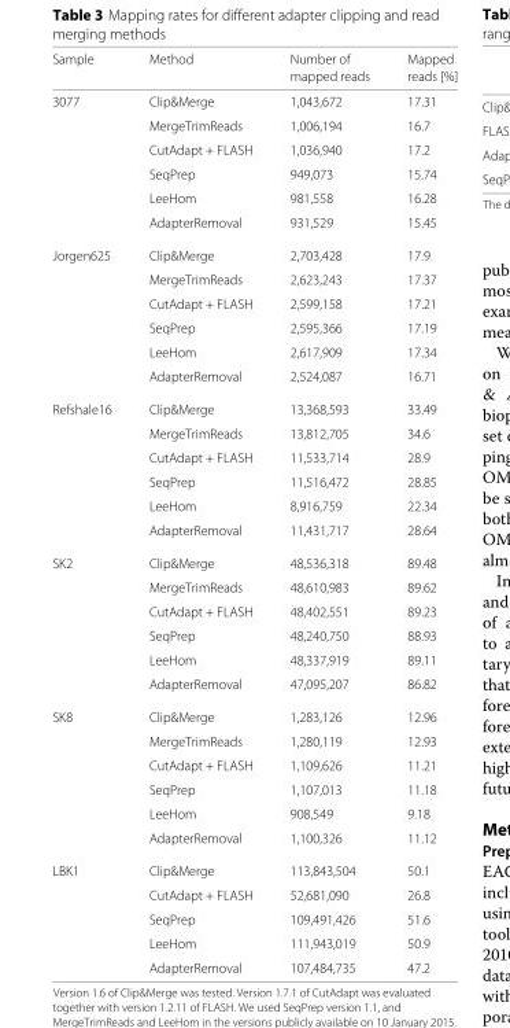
<table><thead><tr><td rowspan="2">Sample</td><td rowspan="2">Method</td><td rowspan="2">Number of mapped reads</td><td rowspan="2">Mapped reads [%]</td></tr><tr></tr></thead><tbody><tr><td rowspan="6">3077</td><td>Clip&amp;Merge</td><td>1,043,672</td><td>17.31</td></tr><tr><td>MergeTrimReads</td><td>1,006,194</td><td>16.7</td></tr><tr><td>CutAdapt + FLASH</td><td>1,036,940</td><td>17.2</td></tr><tr><td>SeqPrep</td><td>949,073</td><td>15.74</td></tr><tr><td>LeeHom</td><td>981,558</td><td>16.28</td></tr><tr><td>AdapterRemoval</td><td>931,529</td><td>15.45</td></tr><tr><td rowspan="6">Jorgen625</td><td>Clip&amp;Merge</td><td>2,703,428</td><td>17.9</td></tr><tr><td>MergeTrimReads</td><td>2,623,243</td><td>17.37</td></tr><tr><td>CutAdapt + FLASH</td><td>2,599,158</td><td>17.21</td></tr><tr><td>SeqPrep</td><td>2,595,366</td><td>17.19</td></tr><tr><td>LeeHom</td><td>2,617,909</td><td>17.34</td></tr><tr><td>AdapterRemoval</td><td>2,524,087</td><td>16.71</td></tr><tr><td rowspan="6">Refshale16</td><td>Clip&amp;Merge</td><td>13,368,593</td><td>33.49</td></tr><tr><td>MergeTrimReads</td><td>13,812,705</td><td>34.6</td></tr><tr><td>CutAdapt + FLASH</td><td>11,533,714</td><td>28.9</td></tr><tr><td>SeqPrep</td><td>11,516,472</td><td>28.85</td></tr><tr><td>LeeHom</td><td>8,916,759</td><td>22.34</td></tr><tr><td>AdapterRemoval</td><td>11,431,717</td><td>28.64</td></tr><tr><td rowspan="6">SK2</td><td>Clip&amp;Merge</td><td>48,536,318</td><td>89.48</td></tr><tr><td>MergeTrimReads</td><td>48,610,983</td><td>89.62</td></tr><tr><td>CutAdapt + FLASH</td><td>48,402,551</td><td>89.23</td></tr><tr><td>SeqPrep</td><td>48,240,750</td><td>88.93</td></tr><tr><td>LeeHom</td><td>48,337,919</td><td>89.11</td></tr><tr><td>AdapterRemoval</td><td>47,095,207</td><td>86.82</td></tr><tr><td rowspan="6">SK8</td><td>Clip&amp;Merge</td><td>1,283,126</td><td>12.96</td></tr><tr><td>MergeTrimReads</td><td>1,280,119</td><td>12.93</td></tr><tr><td>CutAdapt + FLASH</td><td>1,109,626</td><td>11.21</td></tr><tr><td>SeqPrep</td><td>1,107,013</td><td>11.18</td></tr><tr><td>LeeHom</td><td>908,549</td><td>9.18</td></tr><tr><td>AdapterRemoval</td><td>1,100,326</td><td>11.12</td></tr><tr><td rowspan="5">LBK1</td><td>Clip&amp;Merge</td><td>113,843,504</td><td>50.1</td></tr><tr><td>CutAdapt + FLASH</td><td>52,681,090</td><td>26.8</td></tr><tr><td>SeqPrep</td><td>109,491,426</td><td>51.6</td></tr><tr><td>LeeHom</td><td>111,943,019</td><td>50.9</td></tr><tr><td>AdapterRemoval</td><td>107,484,735</td><td>47.2</td></tr></tbody></table>